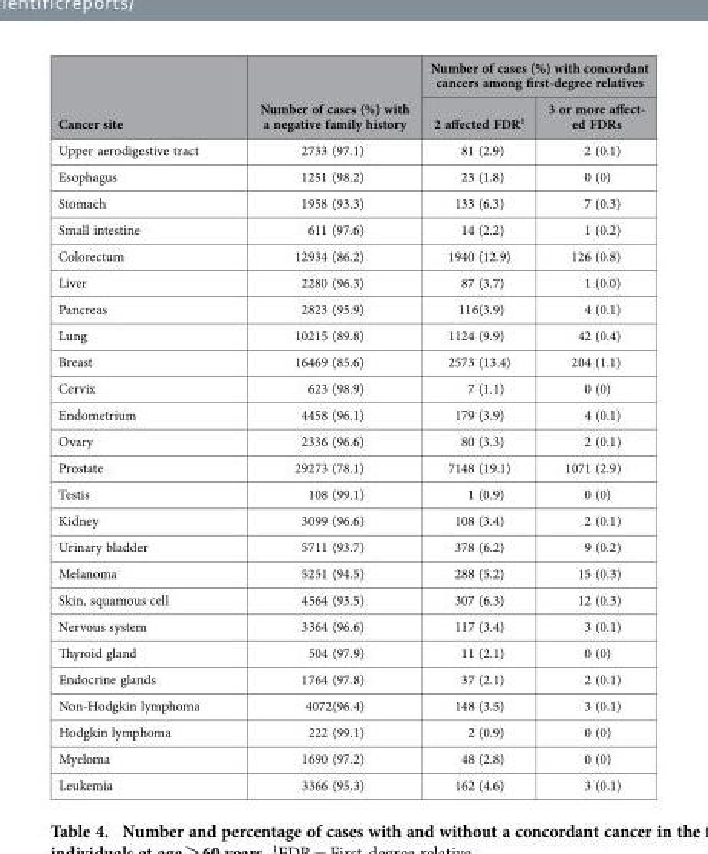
<table><thead><tr><td rowspan="2">Cancer site</td><td rowspan="2">Number of cases (%) with a negative family history</td><td colspan="2">Number of cases (%) with concordant cancers among first-degree relatives</td></tr><tr><td>2 affected FDR<sup>1</sup></td><td>3 or more affect- ed FDRs</td></tr></thead><tbody><tr><td>Upper aerodigestive tract</td><td>2733 (97.1)</td><td>81 (2.9)</td><td>2 (0.1)</td></tr><tr><td>Esophagus</td><td>1251 (98.2)</td><td>23 (1.8)</td><td>0 (0)</td></tr><tr><td>Stomach</td><td>1958 (93.3)</td><td>133 (6.3)</td><td>7 (0.3)</td></tr><tr><td>Small intestine</td><td>611 (97.6)</td><td>14 (2.2)</td><td>1 (0.2)</td></tr><tr><td>Colorectum</td><td>12934 (86.2)</td><td>1940 (12.9)</td><td>126 (0.8)</td></tr><tr><td>Liver</td><td>2280 (96.3)</td><td>87 (3.7)</td><td>1 (0.0)</td></tr><tr><td>Pancreas</td><td>2823 (95.9)</td><td>116(3.9)</td><td>4 (0.1)</td></tr><tr><td>Lung</td><td>10215 (89.8)</td><td>1124 (9.9)</td><td>42 (0.4)</td></tr><tr><td>Breast</td><td>16469 (85.6)</td><td>2573 (13.4)</td><td>204 (1.1)</td></tr><tr><td>Cervix</td><td>623 (98.9)</td><td>7 (1.1)</td><td>0 (0)</td></tr><tr><td>Endometrium</td><td>4458 (96.1)</td><td>179 (3.9)</td><td>4 (0.1)</td></tr><tr><td>Ovary</td><td>2336 (96.6)</td><td>80 (3.3)</td><td>2 (0.1)</td></tr><tr><td>Prostate</td><td>29273 (78.1)</td><td>7148 (19.1)</td><td>1071 (2.9)</td></tr><tr><td>Testis</td><td>108 (99.1)</td><td>1 (0.9)</td><td>0 (0)</td></tr><tr><td>Kidney</td><td>3099 (96.6)</td><td>108 (3.4)</td><td>2 (0.1)</td></tr><tr><td>Urinary bladder</td><td>5711 (93.7)</td><td>378 (6.2)</td><td>9 (0.2)</td></tr><tr><td>Melanoma</td><td>5251 (94.5)</td><td>288 (5.2)</td><td>15 (0.3)</td></tr><tr><td>Skin, squamous cell</td><td>4564 (93.5)</td><td>307 (6.3)</td><td>12 (0.3)</td></tr><tr><td>Nervous system</td><td>3364 (96.6)</td><td>117 (3.4)</td><td>3 (0.1)</td></tr><tr><td>Thyroid gland</td><td>504 (97.9)</td><td>11 (2.1)</td><td>0 (0)</td></tr><tr><td>Endocrine glands</td><td>1764 (97.8)</td><td>37 (2.1)</td><td>2 (0.1)</td></tr><tr><td>Non-Hodgkin lymphoma</td><td>4072(96.4)</td><td>148 (3.5)</td><td>3 (0.1)</td></tr><tr><td>Hodgkin lymphoma</td><td>222 (99.1)</td><td>2 (0.9)</td><td>0 (0)</td></tr><tr><td>Myeloma</td><td>1690 (97.2)</td><td>48 (2.8)</td><td>0 (0)</td></tr><tr><td>Leukemia</td><td>3366 (95.3)</td><td>162 (4.6)</td><td>3 (0.1)</td></tr></tbody></table>